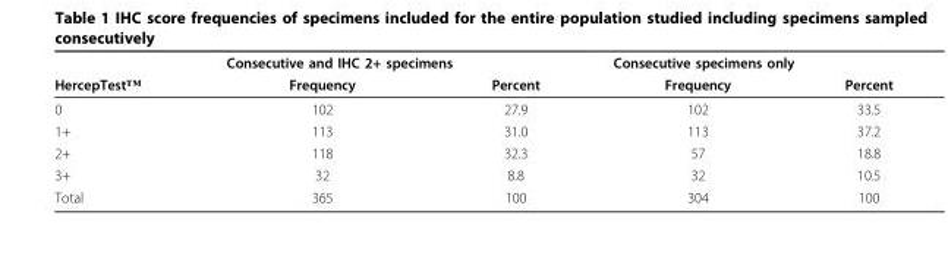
<table><thead><tr><td rowspan="2">HercepTest™</td><td colspan="2">Consecutive and IHC 2+ specimens</td><td colspan="2">Consecutive specimens only</td></tr><tr><td>Frequency</td><td>Percent</td><td>Frequency</td><td>Percent</td></tr></thead><tbody><tr><td>0</td><td>102</td><td>27.9</td><td>102</td><td>33.5</td></tr><tr><td>1+</td><td>113</td><td>31.0</td><td>113</td><td>37.2</td></tr><tr><td>2+</td><td>118</td><td>32.3</td><td>57</td><td>18.8</td></tr><tr><td>3+</td><td>32</td><td>8.8</td><td>32</td><td>10.5</td></tr><tr><td>Total</td><td>365</td><td>100</td><td>304</td><td>100</td></tr></tbody></table>